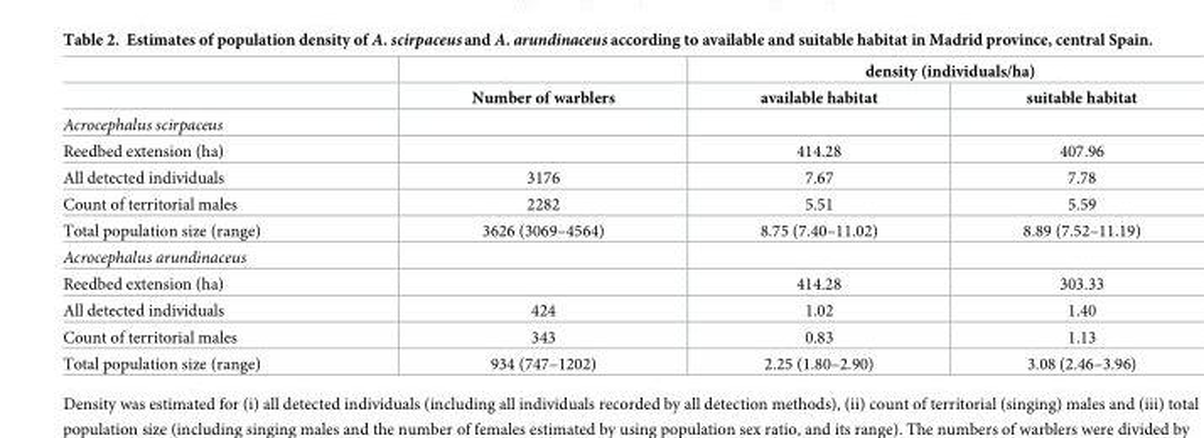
<table><thead><tr><td rowspan="2"></td><td rowspan="2">Number of warblers</td><td colspan="2">density (individuals/ha)</td></tr><tr><td>available habitat</td><td>suitable habitat</td></tr></thead><tbody><tr><td colspan="4">Acrocephalus scirpaceus</td></tr><tr><td>Reedbed extension (ha)</td><td></td><td>414.28</td><td>407.96</td></tr><tr><td>All detected individuals</td><td>3176</td><td>7.67</td><td>7.78</td></tr><tr><td>Count of territorial males</td><td>2282</td><td>5.51</td><td>5.59</td></tr><tr><td>Total population size (range)</td><td>3626 (3069–4564)</td><td>8.75 (7.40–11.02)</td><td>8.89 (7.52–11.19)</td></tr><tr><td colspan="4">Acrocephalus arundinaceus</td></tr><tr><td>Reedbed extension (ha)</td><td></td><td>414.28</td><td>303.33</td></tr><tr><td>All detected individuals</td><td>424</td><td>1.02</td><td>1.40</td></tr><tr><td>Count of territorial males</td><td>343</td><td>0.83</td><td>1.13</td></tr><tr><td>Total population size (range)</td><td>934 (747–1202)</td><td>2.25 (1.80–2.90)</td><td>3.08 (2.46–3.96)</td></tr></tbody></table>